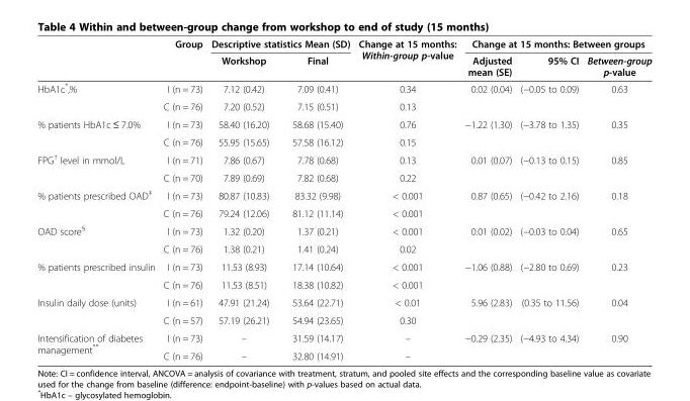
<table><thead><tr><td rowspan="2"></td><td rowspan="2">Group</td><td colspan="2">Descriptive statistics Mean (SD)</td><td rowspan="2">Change at 15 months: Within-group p-value</td><td colspan="3">Change at 15 months: Between groups</td></tr><tr><td>Workshop</td><td>Final</td><td>Adjusted mean (SE)</td><td>95% CI</td><td>Between-group p-value</td></tr></thead><tbody><tr><td rowspan="2">HbA1c*,%</td><td>I (n = 73)</td><td>7.12 (0.42)</td><td>7.09 (0.41)</td><td>0.34</td><td>0.02 (0.04)</td><td>(−0.05 to 0.09)</td><td>0.63</td></tr><tr><td>C (n = 76)</td><td>7.20 (0.52)</td><td>7.15 (0.51)</td><td>0.13</td><td></td><td></td><td></td></tr><tr><td rowspan="2">% patients HbA1c ≤ 7.0%</td><td>I (n = 73)</td><td>58.40 (16.20)</td><td>58.68 (15.40)</td><td>0.76</td><td>−1.22 (1.30)</td><td>(−3.78 to 1.35)</td><td>0.35</td></tr><tr><td>C (n = 76)</td><td>55.95 (15.65)</td><td>57.58 (16.12)</td><td>0.15</td><td></td><td></td><td></td></tr><tr><td rowspan="2">FPG<sup>†</sup> level in mmol/L</td><td>I (n = 71)</td><td>7.86 (0.67)</td><td>7.78 (0.68)</td><td>0.13</td><td>0.01 (0.07)</td><td>(−0.13 to 0.15)</td><td>0.85</td></tr><tr><td>C (n = 70)</td><td>7.89 (0.69)</td><td>7.82 (0.68)</td><td>0.22</td><td></td><td></td><td></td></tr><tr><td rowspan="2">% patients prescribed OAD<sup>‡</sup></td><td>I (n = 73)</td><td>80.87 (10.83)</td><td>83.32 (9.98)</td><td>&lt; 0.001</td><td>0.87 (0.65)</td><td>(−0.42 to 2.16)</td><td>0.18</td></tr><tr><td>C (n = 76)</td><td>79.24 (12.06)</td><td>81.12 (11.14)</td><td>&lt; 0.001</td><td></td><td></td><td></td></tr><tr><td rowspan="2">OAD score<sup>§</sup></td><td>I (n = 73)</td><td>1.32 (0.20)</td><td>1.37 (0.21)</td><td>&lt; 0.001</td><td>0.01 (0.02)</td><td>(−0.03 to 0.04)</td><td>0.65</td></tr><tr><td>C (n = 76)</td><td>1.38 (0.21)</td><td>1.41 (0.24)</td><td>0.02</td><td></td><td></td><td></td></tr><tr><td rowspan="2">% patients prescribed insulin</td><td>I (n = 73)</td><td>11.53 (8.93)</td><td>17.14 (10.64)</td><td>&lt; 0.001</td><td>−1.06 (0.88)</td><td>(−2.80 to 0.69)</td><td>0.23</td></tr><tr><td>C (n = 76)</td><td>11.53 (8.51)</td><td>18.38 (10.82)</td><td>&lt; 0.001</td><td></td><td></td><td></td></tr><tr><td rowspan="2">Insulin daily dose (units)</td><td>I (n = 61)</td><td>47.91 (21.24)</td><td>53.64 (22.71)</td><td>&lt; 0.01</td><td>5.96 (2.83)</td><td>(0.35 to 11.56)</td><td>0.04</td></tr><tr><td>C (n = 57)</td><td>57.19 (26.21)</td><td>54.94 (23.65)</td><td>0.30</td><td></td><td></td><td></td></tr><tr><td rowspan="2">Intensification of diabetes management**</td><td>I (n = 73)</td><td>–</td><td>31.59 (14.17)</td><td>–</td><td>−0.29 (2.35)</td><td>(−4.93 to 4.34)</td><td>0.90</td></tr><tr><td>C (n = 76)</td><td>–</td><td>32.80 (14.91)</td><td>–</td><td></td><td></td><td></td></tr></tbody></table>